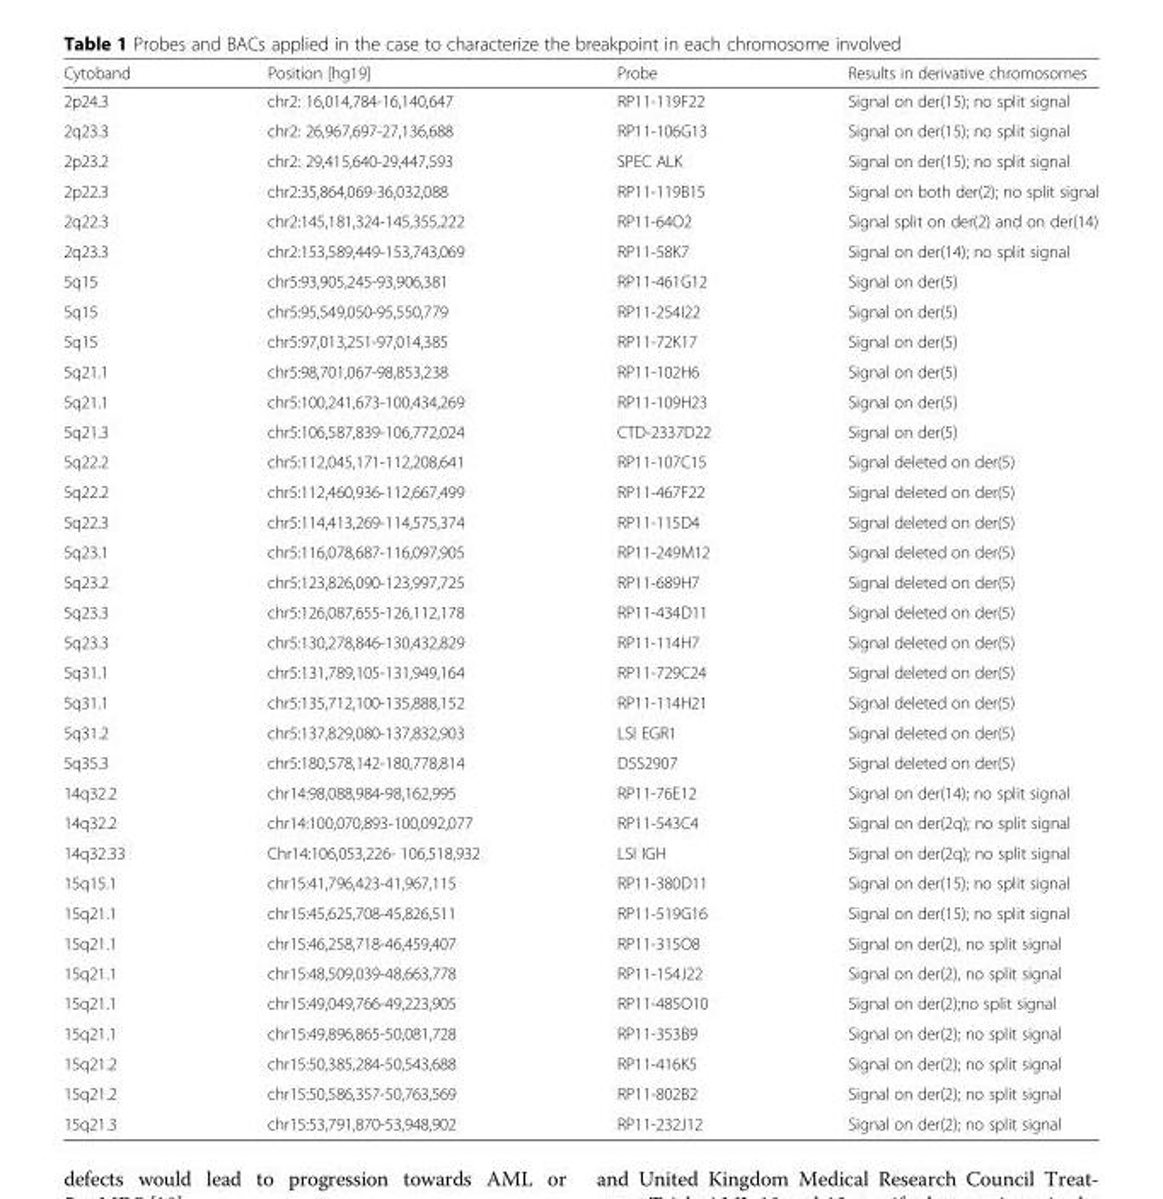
<table><thead><tr><td>Cytoband</td><td>Position [hg19]</td><td>Probe</td><td>Results in derivative chromosomes</td></tr></thead><tbody><tr><td>2p24.3</td><td>chr2: 16,014,784-16,140,647</td><td>RP11-119F22</td><td>Signal on der(15); no split signal</td></tr><tr><td>2q23.3</td><td>chr2: 26,967,697-27,136,688</td><td>RP11-106G13</td><td>Signal on der(15); no split signal</td></tr><tr><td>2p23.2</td><td>chr2: 29,415,640-29,447,593</td><td>SPEC ALK</td><td>Signal on der(15); no split signal</td></tr><tr><td>2p22.3</td><td>chr2:35,864,069-36,032,088</td><td>RP11-119B15</td><td>Signal on both der(2); no split signal</td></tr><tr><td>2q22.3</td><td>chr2:145,181,324-145,355,222</td><td>RP11-64O2</td><td>Signal split on der(2) and on der(14)</td></tr><tr><td>2q23.3</td><td>chr2:153,589,449-153,743,069</td><td>RP11-58K7</td><td>Signal on der(14); no split signal</td></tr><tr><td>5q15</td><td>chr5:93,905,245-93,906,381</td><td>RP11-461G12</td><td>Signal on der(5)</td></tr><tr><td>5q15</td><td>chr5:95,549,050-95,550,779</td><td>RP11-254I22</td><td>Signal on der(5)</td></tr><tr><td>5q15</td><td>chr5:97,013,251-97,014,385</td><td>RP11-72K17</td><td>Signal on der(5)</td></tr><tr><td>5q21.1</td><td>chr5:98,701,067-98,853,238</td><td>RP11-102H6</td><td>Signal on der(5)</td></tr><tr><td>5q21.1</td><td>chr5:100,241,673-100,434,269</td><td>RP11-109H23</td><td>Signal on der(5)</td></tr><tr><td>5q21.3</td><td>chr5:106,587,839-106,772,024</td><td>CTD-2337D22</td><td>Signal on der(5)</td></tr><tr><td>5q22.2</td><td>chr5:112,045,171-112,208,641</td><td>RP11-107C15</td><td>Signal deleted on der(5)</td></tr><tr><td>5q22.2</td><td>chr5:112,460,936-112,667,499</td><td>RP11-467F22</td><td>Signal deleted on der(5)</td></tr><tr><td>5q22.3</td><td>chr5:114,413,269-114,575,374</td><td>RP11-115D4</td><td>Signal deleted on der(5)</td></tr><tr><td>5q23.1</td><td>chr5:116,078,687-116,097,905</td><td>RP11-249M12</td><td>Signal deleted on der(5)</td></tr><tr><td>5q23.2</td><td>chr5:123,826,090-123,997,725</td><td>RP11-689H7</td><td>Signal deleted on der(5)</td></tr><tr><td>5q23.3</td><td>chr5:126,087,655-126,112,178</td><td>RP11-434D11</td><td>Signal deleted on der(5)</td></tr><tr><td>5q23.3</td><td>chr5:130,278,846-130,432,829</td><td>RP11-114H7</td><td>Signal deleted on der(5)</td></tr><tr><td>5q31.1</td><td>chr5:131,789,105-131,949,164</td><td>RP11-729C24</td><td>Signal deleted on der(5)</td></tr><tr><td>5q31.1</td><td>chr5:135,712,100-135,888,152</td><td>RP11-114H21</td><td>Signal deleted on der(5)</td></tr><tr><td>5q31.2</td><td>chr5:137,829,080-137,832,903</td><td>LSI EGR1</td><td>Signal deleted on der(5)</td></tr><tr><td>5q35.3</td><td>chr5:180,578,142-180,778,814</td><td>D5S2907</td><td>Signal deleted on der(5)</td></tr><tr><td>14q32.2</td><td>chr14:98,088,984-98,162,995</td><td>RP11-76E12</td><td>Signal on der(14); no split signal</td></tr><tr><td>14q32.2</td><td>chr14:100,070,893-100,092,077</td><td>RP11-543C4</td><td>Signal on der(2q); no split signal</td></tr><tr><td>14q32.33</td><td>Chr14:106,053,226- 106,518,932</td><td>LSI IGH</td><td>Signal on der(2q); no split signal</td></tr><tr><td>15q15.1</td><td>chr15:41,796,423-41,967,115</td><td>RP11-380D11</td><td>Signal on der(15); no split signal</td></tr><tr><td>15q21.1</td><td>chr15:45,625,708-45,826,511</td><td>RP11-519G16</td><td>Signal on der(15); no split signal</td></tr><tr><td>15q21.1</td><td>chr15:46,258,718-46,459,407</td><td>RP11-315O8</td><td>Signal on der(2), no split signal</td></tr><tr><td>15q21.1</td><td>chr15:48,509,039-48,663,778</td><td>RP11-154J22</td><td>Signal on der(2), no split signal</td></tr><tr><td>15q21.1</td><td>chr15:49,049,766-49,223,905</td><td>RP11-485O10</td><td>Signal on der(2);no split signal</td></tr><tr><td>15q21.1</td><td>chr15:49,896,865-50,081,728</td><td>RP11-353B9</td><td>Signal on der(2); no split signal</td></tr><tr><td>15q21.2</td><td>chr15:50,385,284-50,543,688</td><td>RP11-416K5</td><td>Signal on der(2); no split signal</td></tr><tr><td>15q21.2</td><td>chr15:50,586,357-50,763,569</td><td>RP11-802B2</td><td>Signal on der(2); no split signal</td></tr><tr><td>15q21.3</td><td>chr15:53,791,870-53,948,902</td><td>RP11-232J12</td><td>Signal on der(2); no split signal</td></tr></tbody></table>